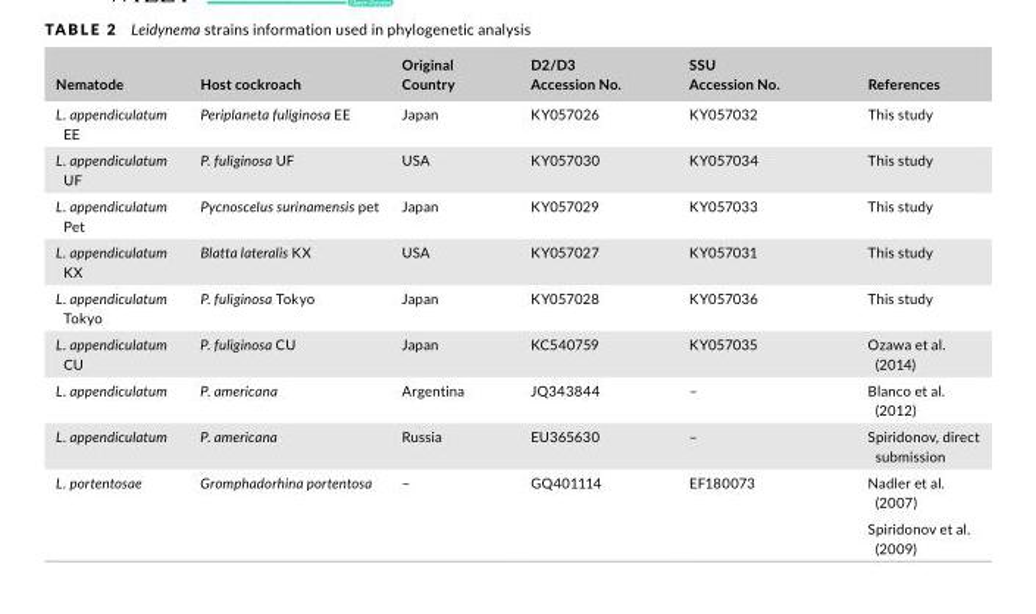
<table><thead><tr><td>Nematode</td><td>Host cockroach</td><td>Original Country</td><td>D2/D3 Accession No.</td><td>SSU Accession No.</td><td>References</td></tr></thead><tbody><tr><td>L. appendiculatum EE</td><td>Periplaneta fuliginosa EE</td><td>Japan</td><td>KY057026</td><td>KY057032</td><td>This study</td></tr><tr><td>L. appendiculatum UF</td><td>P. fuliginosa UF</td><td>USA</td><td>KY057030</td><td>KY057034</td><td>This study</td></tr><tr><td>L. appendiculatum Pet</td><td>Pycnoscelus surinamensis pet</td><td>Japan</td><td>KY057029</td><td>KY057033</td><td>This study</td></tr><tr><td>L. appendiculatum KX</td><td>Blatta lateralis KX</td><td>USA</td><td>KY057027</td><td>KY057031</td><td>This study</td></tr><tr><td>L. appendiculatum Tokyo</td><td>P. fuliginosa Tokyo</td><td>Japan</td><td>KY057028</td><td>KY057036</td><td>This study</td></tr><tr><td>L. appendiculatum CU</td><td>P. fuliginosa CU</td><td>Japan</td><td>KC540759</td><td>KY057035</td><td>Ozawa et al. (2014)</td></tr><tr><td>L. appendiculatum</td><td>P. americana</td><td>Argentina</td><td>JQ343844</td><td>–</td><td>Blanco et al. (2012)</td></tr><tr><td>L. appendiculatum</td><td>P. americana</td><td>Russia</td><td>EU365630</td><td>–</td><td>Spiridonov, direct submission</td></tr><tr><td rowspan="2">L. portentosae</td><td>Gromphadorhina portentosa</td><td>–</td><td>GQ401114</td><td>EF180073</td><td>Nadler et al. (2007)</td></tr><tr><td></td><td></td><td></td><td></td><td>Spiridonov et al. (2009)</td></tr></tbody></table>